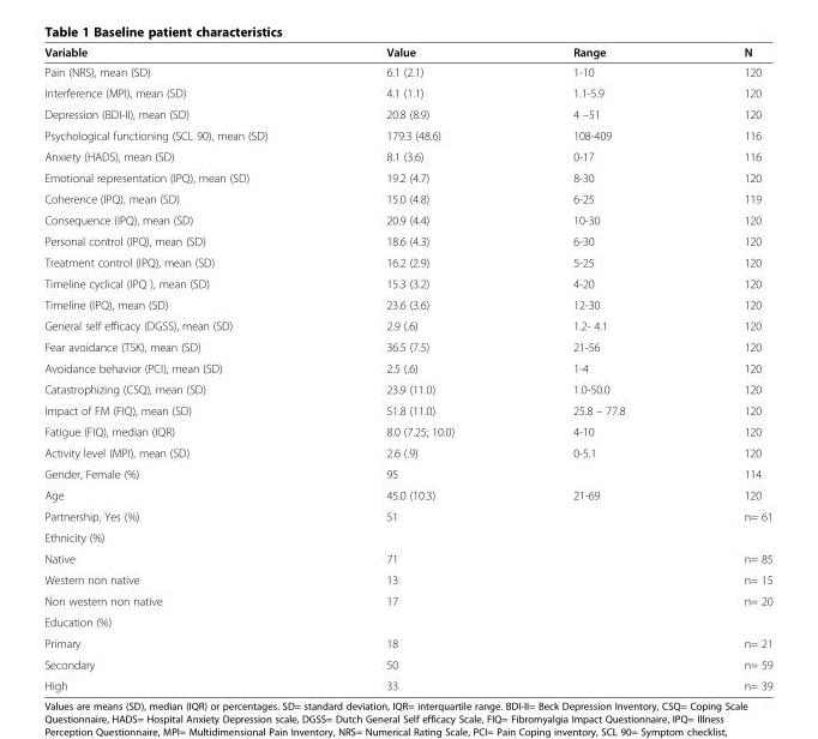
<table><thead><tr><td>Variable</td><td>Value</td><td>Range</td><td>N</td></tr></thead><tbody><tr><td>Pain (NRS), mean (SD)</td><td>6.1 (2.1)</td><td>1-10</td><td>120</td></tr><tr><td>Interference (MPI), mean (SD)</td><td>4.1 (1.1)</td><td>1.1-5.9</td><td>120</td></tr><tr><td>Depression (BDI-II), mean (SD)</td><td>20.8 (8.9)</td><td>4 –51</td><td>120</td></tr><tr><td>Psychological functioning (SCL 90), mean (SD)</td><td>179.3 (48.6)</td><td>108-409</td><td>116</td></tr><tr><td>Anxiety (HADS), mean (SD)</td><td>8.1 (3.6)</td><td>0-17</td><td>116</td></tr><tr><td>Emotional representation (IPQ), mean (SD)</td><td>19.2 (4.7)</td><td>8-30</td><td>120</td></tr><tr><td>Coherence (IPQ), mean (SD)</td><td>15.0 (4.8)</td><td>6-25</td><td>119</td></tr><tr><td>Consequence (IPQ), mean (SD)</td><td>20.9 (4.4)</td><td>10-30</td><td>120</td></tr><tr><td>Personal control (IPQ), mean (SD)</td><td>18.6 (4.3)</td><td>6-30</td><td>120</td></tr><tr><td>Treatment control (IPQ), mean (SD)</td><td>16.2 (2.9)</td><td>5-25</td><td>120</td></tr><tr><td>Timeline cyclical (IPQ ), mean (SD)</td><td>15.3 (3.2)</td><td>4-20</td><td>120</td></tr><tr><td>Timeline (IPQ), mean (SD)</td><td>23.6 (3.6)</td><td>12-30</td><td>120</td></tr><tr><td>General self efficacy (DGSS), mean (SD)</td><td>2.9 (.6)</td><td>1.2- 4.1</td><td>120</td></tr><tr><td>Fear avoidance (TSK), mean (SD)</td><td>36.5 (7.5)</td><td>21-56</td><td>120</td></tr><tr><td>Avoidance behavior (PCI), mean (SD)</td><td>2.5 (.6)</td><td>1-4</td><td>120</td></tr><tr><td>Catastrophizing (CSQ), mean (SD)</td><td>23.9 (11.0)</td><td>1.0-50.0</td><td>120</td></tr><tr><td>Impact of FM (FIQ), mean (SD)</td><td>51.8 (11.0)</td><td>25.8 – 77.8</td><td>120</td></tr><tr><td>Fatigue (FIQ), median (IQR)</td><td>8.0 (7.25; 10.0)</td><td>4-10</td><td>120</td></tr><tr><td>Activity level (MPI), mean (SD)</td><td>2.6 (.9)</td><td>0-5.1</td><td>120</td></tr><tr><td>Gender, Female (%)</td><td>95</td><td></td><td>114</td></tr><tr><td>Age</td><td>45.0 (10.3)</td><td>21-69</td><td>120</td></tr><tr><td>Partnership, Yes (%)</td><td>51</td><td></td><td>n= 61</td></tr><tr><td colspan="4">Ethnicity (%)</td></tr><tr><td>Native</td><td>71</td><td></td><td>n= 85</td></tr><tr><td>Western non native</td><td>13</td><td></td><td>n= 15</td></tr><tr><td>Non western non native</td><td>17</td><td></td><td>n= 20</td></tr><tr><td colspan="4">Education (%)</td></tr><tr><td>Primary</td><td>18</td><td></td><td>n= 21</td></tr><tr><td>Secondary</td><td>50</td><td></td><td>n= 59</td></tr><tr><td>High</td><td>33</td><td></td><td>n= 39</td></tr></tbody></table>